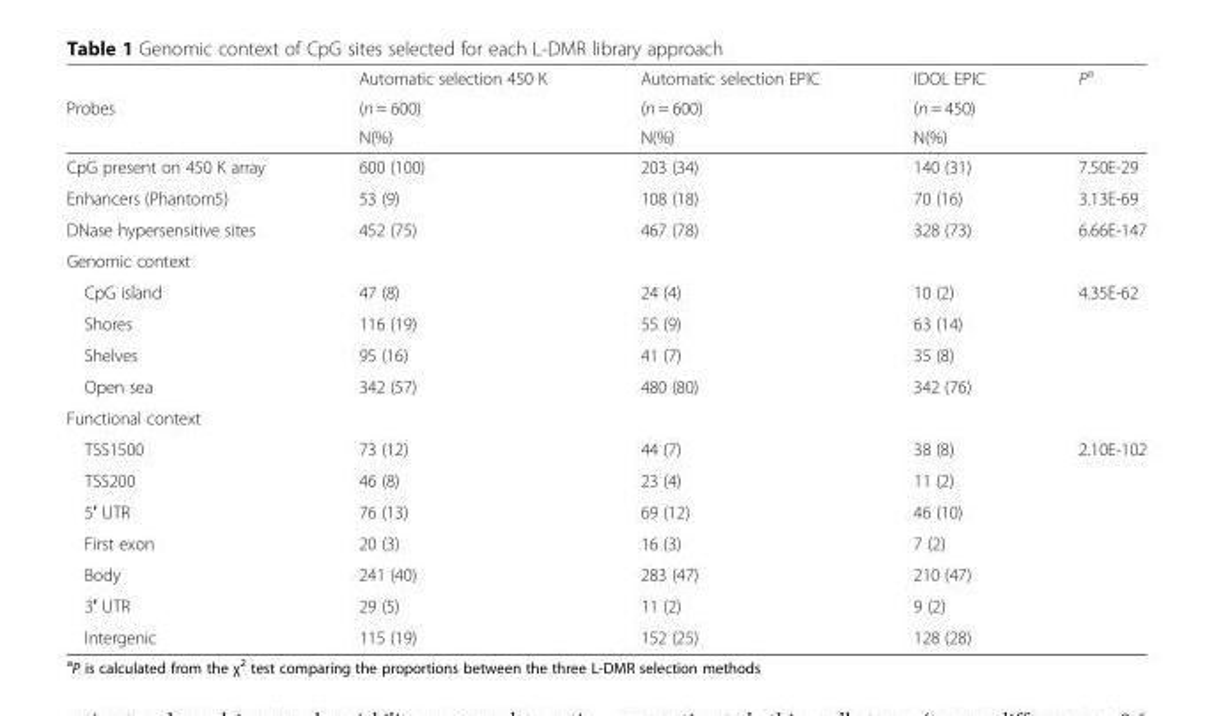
<table><thead><tr><td rowspan="3">Probes</td><td rowspan="3">Automatic selection 450 K (n = 600) N(%)</td><td rowspan="3">Automatic selection EPIC (n = 600) N(%)</td><td rowspan="3">IDOL EPIC (n = 450) N(%)</td><td rowspan="3">P<sup>a</sup></td></tr><tr></tr><tr></tr></thead><tbody><tr><td>CpG present on 450 K array</td><td>600 (100)</td><td>203 (34)</td><td>140 (31)</td><td>7.50E-29</td></tr><tr><td>Enhancers (Phantom5)</td><td>53 (9)</td><td>108 (18)</td><td>70 (16)</td><td>3.13E-69</td></tr><tr><td>DNase hypersensitive sites</td><td>452 (75)</td><td>467 (78)</td><td>328 (73)</td><td>6.66E-147</td></tr><tr><td colspan="5">Genomic context</td></tr><tr><td>CpG island</td><td>47 (8)</td><td>24 (4)</td><td>10 (2)</td><td>4.35E-62</td></tr><tr><td>Shores</td><td>116 (19)</td><td>55 (9)</td><td>63 (14)</td><td rowspan="3"></td></tr><tr><td>Shelves</td><td>95 (16)</td><td>41 (7)</td><td>35 (8)</td></tr><tr><td>Open sea</td><td>342 (57)</td><td>480 (80)</td><td>342 (76)</td></tr><tr><td colspan="5">Functional context</td></tr><tr><td>TSS1500</td><td>73 (12)</td><td>44 (7)</td><td>38 (8)</td><td>2.10E-102</td></tr><tr><td>TSS200</td><td>46 (8)</td><td>23 (4)</td><td>11 (2)</td><td rowspan="6"></td></tr><tr><td>5′ UTR</td><td>76 (13)</td><td>69 (12)</td><td>46 (10)</td></tr><tr><td>First exon</td><td>20 (3)</td><td>16 (3)</td><td>7 (2)</td></tr><tr><td>Body</td><td>241 (40)</td><td>283 (47)</td><td>210 (47)</td></tr><tr><td>3′ UTR</td><td>29 (5)</td><td>11 (2)</td><td>9 (2)</td></tr><tr><td>Intergenic</td><td>115 (19)</td><td>152 (25)</td><td>128 (28)</td></tr></tbody></table>